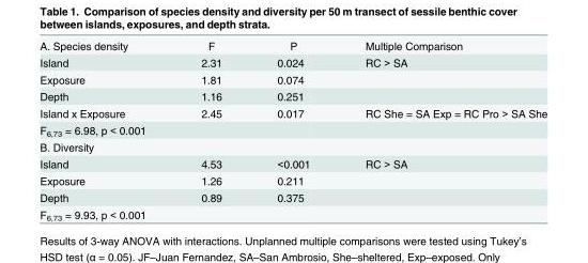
<table><tbody><tr><td>A. Species density</td><td>F</td><td>P</td><td>Multiple Comparison</td></tr><tr><td>Island</td><td>2.31</td><td>0.024</td><td>RC &gt; SA</td></tr><tr><td>Exposure</td><td>1.81</td><td>0.074</td><td></td></tr><tr><td>Depth</td><td>1.16</td><td>0.251</td><td></td></tr><tr><td>Island x Exposure</td><td>2.45</td><td>0.017</td><td>RC She = SA Exp = RC Pro &gt; SA She</td></tr><tr><td colspan="4">F<sub>6,73</sub> = 6.98, p &lt; 0.001</td></tr><tr><td colspan="4">B. Diversity</td></tr><tr><td>Island</td><td>4.53</td><td>&lt;0.001</td><td>RC &gt; SA</td></tr><tr><td>Exposure</td><td>1.26</td><td>0.211</td><td></td></tr><tr><td>Depth</td><td>0.89</td><td>0.375</td><td></td></tr><tr><td>F<sub>6,73</sub> = 9.93, p &lt; 0.001</td><td></td><td></td><td></td></tr></tbody></table>